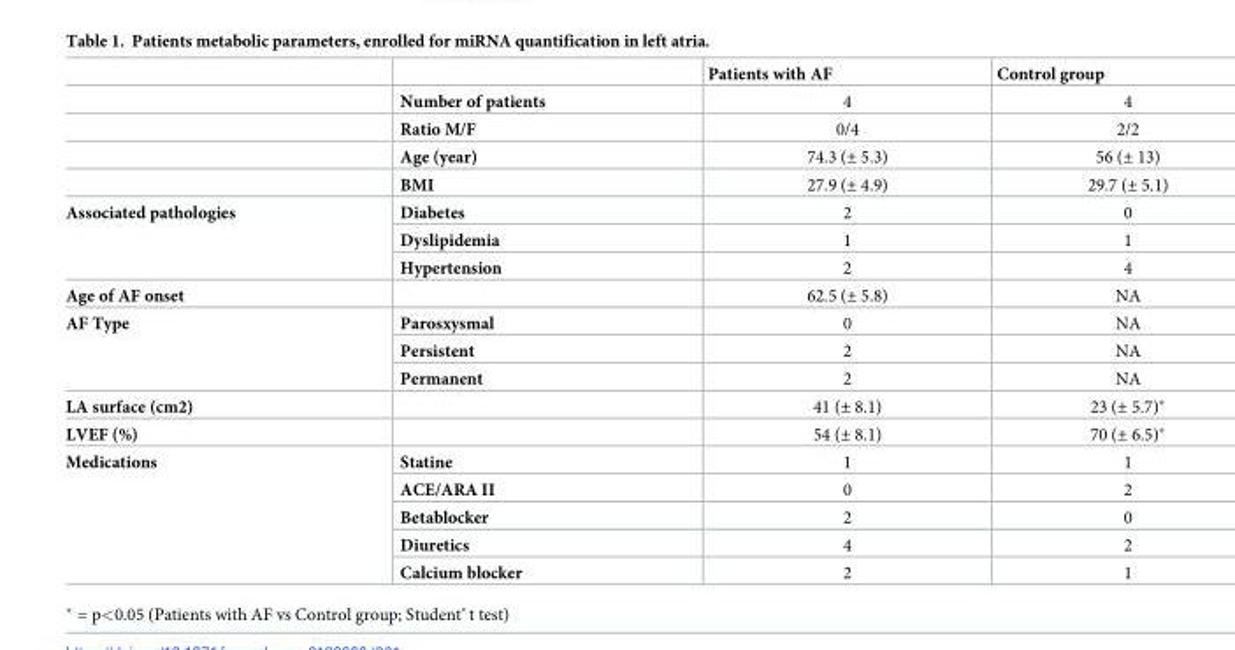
<table><thead><tr><td></td><td></td><td>Patients with AF</td><td>Control group</td></tr></thead><tbody><tr><td></td><td>Number of patients</td><td>4</td><td>4</td></tr><tr><td></td><td>Ratio M/F</td><td>0/4</td><td>2/2</td></tr><tr><td></td><td>Age (year)</td><td>74.3 (± 5.3)</td><td>56 (± 13)</td></tr><tr><td></td><td>BMI</td><td>27.9 (± 4.9)</td><td>29.7 (± 5.1)</td></tr><tr><td rowspan="3">Associated pathologies</td><td>Diabetes</td><td>2</td><td>0</td></tr><tr><td>Dyslipidemia</td><td>1</td><td>1</td></tr><tr><td>Hypertension</td><td>2</td><td>4</td></tr><tr><td>Age of AF onset</td><td></td><td>62.5 (± 5.8)</td><td>NA</td></tr><tr><td rowspan="3">AF Type</td><td>Parosxysmal</td><td>0</td><td>NA</td></tr><tr><td>Persistent</td><td>2</td><td>NA</td></tr><tr><td>Permanent</td><td>2</td><td>NA</td></tr><tr><td>LA surface (cm2)</td><td></td><td>41 (± 8.1)</td><td>23 (± 5.7)*</td></tr><tr><td>LVEF (%)</td><td></td><td>54 (± 8.1)</td><td>70 (± 6.5)*</td></tr><tr><td rowspan="5">Medications</td><td>Statine</td><td>1</td><td>1</td></tr><tr><td>ACE/ARA II</td><td>0</td><td>2</td></tr><tr><td>Betablocker</td><td>2</td><td>0</td></tr><tr><td>Diuretics</td><td>4</td><td>2</td></tr><tr><td>Calcium blocker</td><td>2</td><td>1</td></tr></tbody></table>